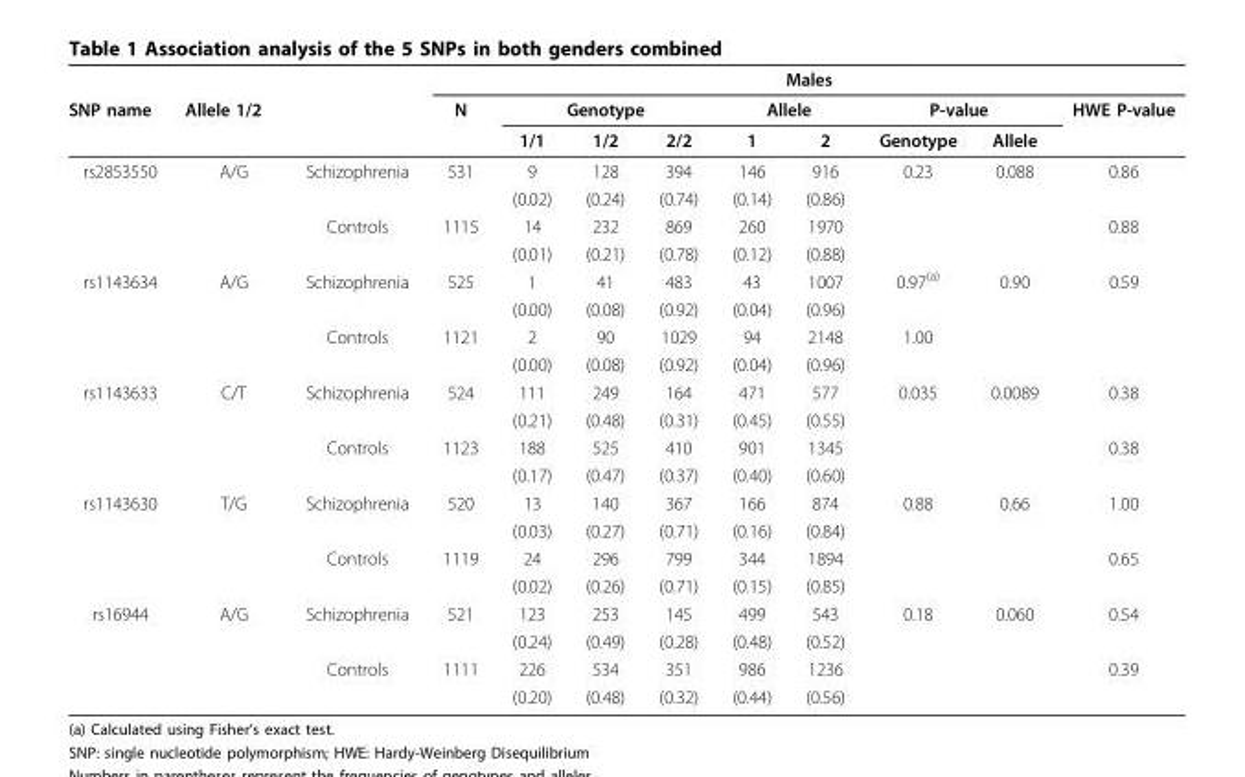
<table><thead><tr><td rowspan="3">SNP name</td><td rowspan="3">Allele 1/2</td><td rowspan="3"></td><td colspan="9">Males</td></tr><tr><td rowspan="2">N</td><td colspan="3">Genotype</td><td colspan="2">Allele</td><td colspan="2">P-value</td><td rowspan="2">HWE P-value</td></tr><tr><td>1/1</td><td>1/2</td><td>2/2</td><td>1</td><td>2</td><td>Genotype</td><td>Allele</td></tr></thead><tbody><tr><td rowspan="4">rs2853550</td><td>A/G</td><td>Schizophrenia</td><td>531</td><td>9</td><td>128</td><td>394</td><td>146</td><td>916</td><td>0.23</td><td>0.088</td><td>0.86</td></tr><tr><td></td><td></td><td></td><td>(0.02)</td><td>(0.24)</td><td>(0.74)</td><td>(0.14)</td><td>(0.86)</td><td></td><td></td><td></td></tr><tr><td></td><td>Controls</td><td>1115</td><td>14</td><td>232</td><td>869</td><td>260</td><td>1970</td><td></td><td></td><td>0.88</td></tr><tr><td></td><td></td><td></td><td>(0.01)</td><td>(0.21)</td><td>(0.78)</td><td>(0.12)</td><td>(0.88)</td><td></td><td></td><td></td></tr><tr><td rowspan="4">rs1143634</td><td>A/G</td><td>Schizophrenia</td><td>525</td><td>1</td><td>41</td><td>483</td><td>43</td><td>1007</td><td>0.97<sup>(a)</sup></td><td>0.90</td><td>0.59</td></tr><tr><td></td><td></td><td></td><td>(0.00)</td><td>(0.08)</td><td>(0.92)</td><td>(0.04)</td><td>(0.96)</td><td></td><td></td><td></td></tr><tr><td></td><td>Controls</td><td>1121</td><td>2</td><td>90</td><td>1029</td><td>94</td><td>2148</td><td>1.00</td><td></td><td></td></tr><tr><td></td><td></td><td></td><td>(0.00)</td><td>(0.08)</td><td>(0.92)</td><td>(0.04)</td><td>(0.96)</td><td></td><td></td><td></td></tr><tr><td rowspan="4">rs1143633</td><td>C/T</td><td>Schizophrenia</td><td>524</td><td>111</td><td>249</td><td>164</td><td>471</td><td>577</td><td>0.035</td><td>0.0089</td><td>0.38</td></tr><tr><td></td><td></td><td></td><td>(0.21)</td><td>(0.48)</td><td>(0.31)</td><td>(0.45)</td><td>(0.55)</td><td></td><td></td><td></td></tr><tr><td></td><td>Controls</td><td>1123</td><td>188</td><td>525</td><td>410</td><td>901</td><td>1345</td><td></td><td></td><td>0.38</td></tr><tr><td></td><td></td><td></td><td>(0.17)</td><td>(0.47)</td><td>(0.37)</td><td>(0.40)</td><td>(0.60)</td><td></td><td></td><td></td></tr><tr><td rowspan="4">rs1143630</td><td>T/G</td><td>Schizophrenia</td><td>520</td><td>13</td><td>140</td><td>367</td><td>166</td><td>874</td><td>0.88</td><td>0.66</td><td>1.00</td></tr><tr><td></td><td></td><td></td><td>(0.03)</td><td>(0.27)</td><td>(0.71)</td><td>(0.16)</td><td>(0.84)</td><td></td><td></td><td></td></tr><tr><td></td><td>Controls</td><td>1119</td><td>24</td><td>296</td><td>799</td><td>344</td><td>1894</td><td></td><td></td><td>0.65</td></tr><tr><td></td><td></td><td></td><td>(0.02)</td><td>(0.26)</td><td>(0.71)</td><td>(0.15)</td><td>(0.85)</td><td></td><td></td><td></td></tr><tr><td rowspan="4">rs16944</td><td>A/G</td><td>Schizophrenia</td><td>521</td><td>123</td><td>253</td><td>145</td><td>499</td><td>543</td><td>0.18</td><td>0.060</td><td>0.54</td></tr><tr><td></td><td></td><td></td><td>(0.24)</td><td>(0.49)</td><td>(0.28)</td><td>(0.48)</td><td>(0.52)</td><td></td><td></td><td></td></tr><tr><td></td><td>Controls</td><td>1111</td><td>226</td><td>534</td><td>351</td><td>986</td><td>1236</td><td></td><td></td><td>0.39</td></tr><tr><td></td><td></td><td></td><td>(0.20)</td><td>(0.48)</td><td>(0.32)</td><td>(0.44)</td><td>(0.56)</td><td></td><td></td><td></td></tr></tbody></table>